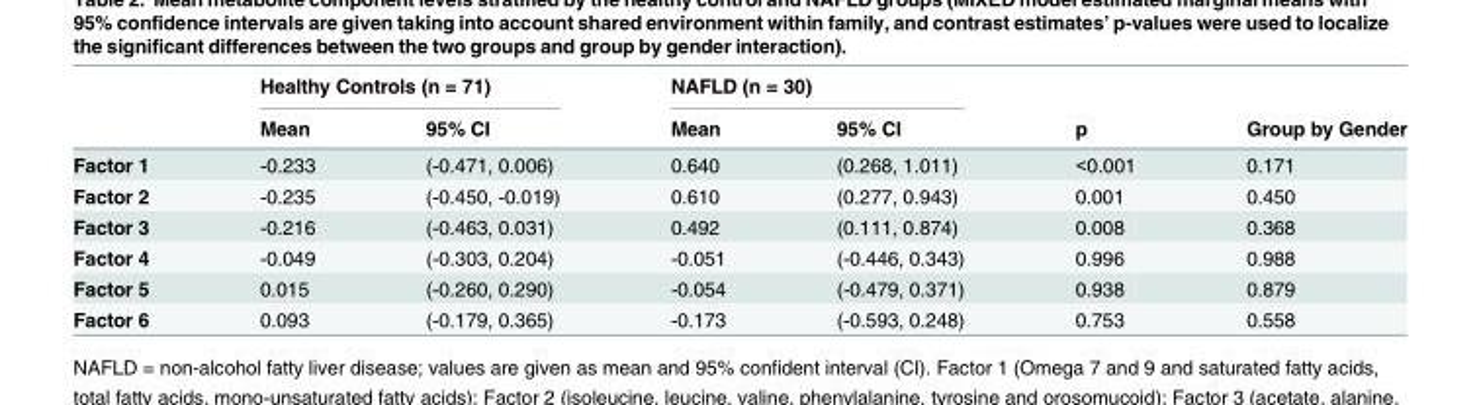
<table><thead><tr><td rowspan="2"></td><td colspan="2">Healthy Controls (n = 71)</td><td colspan="2">NAFLD (n = 30)</td><td rowspan="2">p</td><td rowspan="2">Group by Gender</td></tr><tr><td>Mean</td><td>95% CI</td><td>Mean</td><td>95% CI</td></tr></thead><tbody><tr><td>Factor 1</td><td>-0.233</td><td>(-0.471, 0.006)</td><td>0.640</td><td>(0.268, 1.011)</td><td>&lt;0.001</td><td>0.171</td></tr><tr><td>Factor 2</td><td>-0.235</td><td>(-0.450, -0.019)</td><td>0.610</td><td>(0.277, 0.943)</td><td>0.001</td><td>0.450</td></tr><tr><td>Factor 3</td><td>-0.216</td><td>(-0.463, 0.031)</td><td>0.492</td><td>(0.111, 0.874)</td><td>0.008</td><td>0.368</td></tr><tr><td>Factor 4</td><td>-0.049</td><td>(-0.303, 0.204)</td><td>-0.051</td><td>(-0.446, 0.343)</td><td>0.996</td><td>0.988</td></tr><tr><td>Factor 5</td><td>0.015</td><td>(-0.260, 0.290)</td><td>-0.054</td><td>(-0.479, 0.371)</td><td>0.938</td><td>0.879</td></tr><tr><td>Factor 6</td><td>0.093</td><td>(-0.179, 0.365)</td><td>-0.173</td><td>(-0.593, 0.248)</td><td>0.753</td><td>0.558</td></tr></tbody></table>